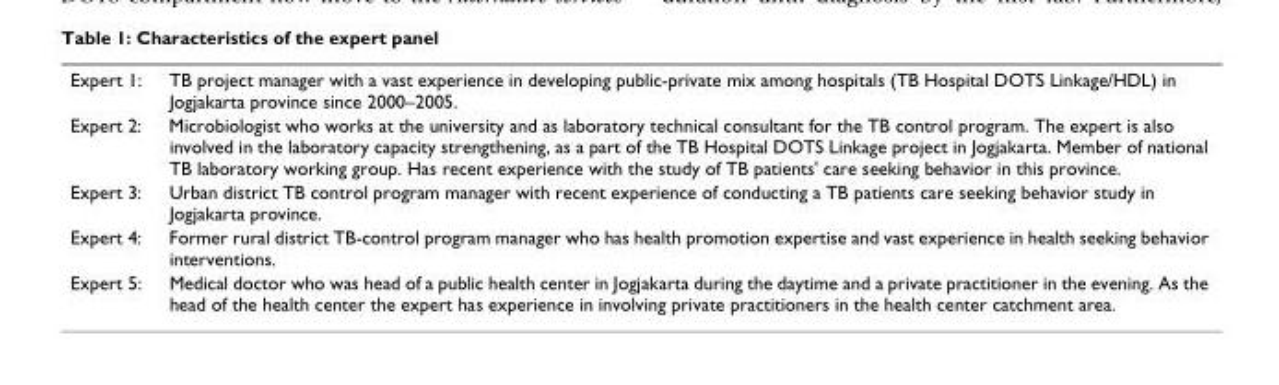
<table><tbody><tr><td>Expert 1:</td><td>TB project manager with a vast experience in developing public-private mix among hospitals (TB Hospital DOTS Linkage/HDL) in Jogjakarta province since 2000–2005.</td></tr><tr><td>Expert 2:</td><td>Microbiologist who works at the university and as laboratory technical consultant for the TB control program. The expert is also involved in the laboratory capacity strengthening, as a part of the TB Hospital DOTS Linkage project in Jogjakarta. Member of national TB laboratory working group. Has recent experience with the study of TB patients&#x27; care seeking behavior in this province.</td></tr><tr><td>Expert 3:</td><td>Urban district TB control program manager with recent experience of conducting a TB patients care seeking behavior study in Jogjakarta province.</td></tr><tr><td>Expert 4:</td><td>Former rural district TB-control program manager who has health promotion expertise and vast experience in health seeking behavior interventions.</td></tr><tr><td>Expert 5:</td><td>Medical doctor who was head of a public health center in Jogjakarta during the daytime and a private practitioner in the evening. As the head of the health center the expert has experience in involving private practitioners in the health center catchment area.</td></tr></tbody></table>